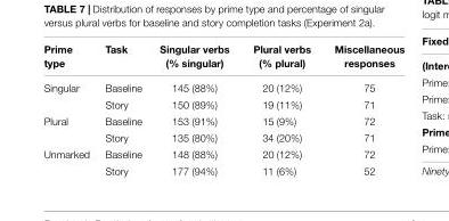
<table><thead><tr><td>Prime type</td><td>Task</td><td>Singular verbs (% singular)</td><td>Plural verbs (% plural)</td><td>Miscellaneous responses</td></tr></thead><tbody><tr><td rowspan="2">Singular</td><td>Baseline</td><td>145 (88%)</td><td>20 (12%)</td><td>75</td></tr><tr><td>Story</td><td>150 (89%)</td><td>19 (11%)</td><td>71</td></tr><tr><td rowspan="2">Plural</td><td>Baseline</td><td>153 (91%)</td><td>15 (9%)</td><td>72</td></tr><tr><td>Story</td><td>135 (80%)</td><td>34 (20%)</td><td>71</td></tr><tr><td rowspan="2">Unmarked</td><td>Baseline</td><td>148 (88%)</td><td>20 (12%)</td><td>72</td></tr><tr><td>Story</td><td>177 (94%)</td><td>11 (6%)</td><td>52</td></tr></tbody></table>